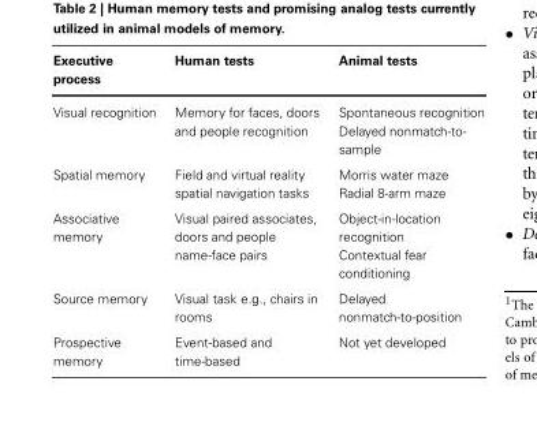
<table><thead><tr><td>Executive process</td><td>Human tests</td><td>Animal tests</td></tr></thead><tbody><tr><td>Visual recognition</td><td>Memory for faces, doors and people recognition</td><td>Spontaneous recognition Delayed nonmatch-to- sample</td></tr><tr><td>Spatial memory</td><td>Field and virtual reality spatial navigation tasks</td><td>Morris water maze Radial 8-arm maze</td></tr><tr><td>Associative memory</td><td>Visual paired associates, doors and people name-face pairs</td><td>Object-in-location recognition Contextual fear conditioning</td></tr><tr><td>Source memory</td><td>Visual task e.g., chairs in rooms</td><td>Delayed nonmatch-to-position</td></tr><tr><td>Prospective memory</td><td>Event-based and time-based</td><td>Not yet developed</td></tr></tbody></table>